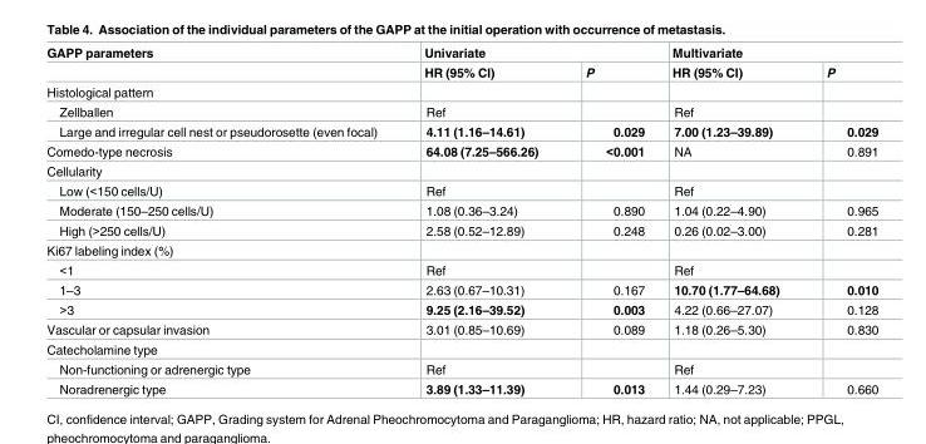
<table><thead><tr><td rowspan="2">GAPP parameters</td><td colspan="2">Univariate</td><td colspan="2">Multivariate</td></tr><tr><td>HR (95% CI)</td><td>P</td><td>HR (95% CI)</td><td>P</td></tr></thead><tbody><tr><td colspan="5">Histological pattern</td></tr><tr><td>Zellballen</td><td>Ref</td><td></td><td>Ref</td><td></td></tr><tr><td>Large and irregular cell nest or pseudorosette (even focal)</td><td>4.11 (1.16–14.61)</td><td>0.029</td><td>7.00 (1.23–39.89)</td><td>0.029</td></tr><tr><td>Comedo-type necrosis</td><td>64.08 (7.25–566.26)</td><td>&lt;0.001</td><td>NA</td><td>0.891</td></tr><tr><td colspan="5">Cellularity</td></tr><tr><td>Low (&lt;150 cells/U)</td><td>Ref</td><td></td><td>Ref</td><td></td></tr><tr><td>Moderate (150–250 cells/U)</td><td>1.08 (0.36–3.24)</td><td>0.890</td><td>1.04 (0.22–4.90)</td><td>0.965</td></tr><tr><td>High (&gt;250 cells/U)</td><td>2.58 (0.52–12.89)</td><td>0.248</td><td>0.26 (0.02–3.00)</td><td>0.281</td></tr><tr><td colspan="5">Ki67 labeling index (%)</td></tr><tr><td>&lt;1</td><td>Ref</td><td></td><td>Ref</td><td></td></tr><tr><td>1–3</td><td>2.63 (0.67–10.31)</td><td>0.167</td><td>10.70 (1.77–64.68)</td><td>0.010</td></tr><tr><td>&gt;3</td><td>9.25 (2.16–39.52)</td><td>0.003</td><td>4.22 (0.66–27.07)</td><td>0.128</td></tr><tr><td>Vascular or capsular invasion</td><td>3.01 (0.85–10.69)</td><td>0.089</td><td>1.18 (0.26–5.30)</td><td>0.830</td></tr><tr><td colspan="5">Catecholamine type</td></tr><tr><td>Non-functioning or adrenergic type</td><td>Ref</td><td></td><td>Ref</td><td></td></tr><tr><td>Noradrenergic type</td><td>3.89 (1.33–11.39)</td><td>0.013</td><td>1.44 (0.29–7.23)</td><td>0.660</td></tr></tbody></table>